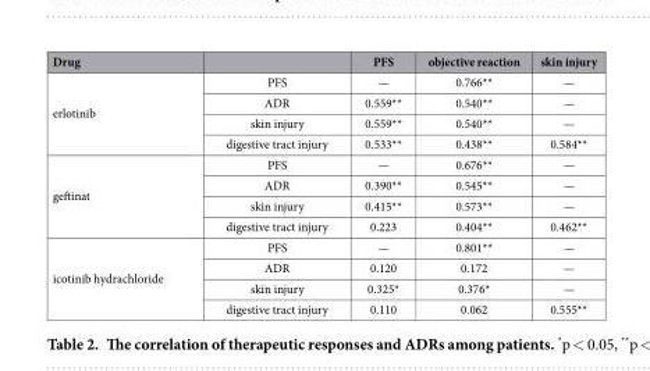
<table><thead><tr><td>Drug</td><td></td><td>PFS</td><td>objective reaction</td><td>skin injury</td></tr></thead><tbody><tr><td rowspan="4">erlotinib</td><td>PFS</td><td>—</td><td>0.766**</td><td>—</td></tr><tr><td>ADR</td><td>0.559**</td><td>0.540**</td><td>—</td></tr><tr><td>skin injury</td><td>0.559**</td><td>0.540**</td><td>—</td></tr><tr><td>digestive tract injury</td><td>0.533**</td><td>0.438**</td><td>0.584**</td></tr><tr><td rowspan="4">geftinat</td><td>PFS</td><td>—</td><td>0.676**</td><td>—</td></tr><tr><td>ADR</td><td>0.390**</td><td>0.545**</td><td>—</td></tr><tr><td>skin injury</td><td>0.415**</td><td>0.573**</td><td>—</td></tr><tr><td>digestive tract injury</td><td>0.223</td><td>0.404**</td><td>0.462**</td></tr><tr><td rowspan="4">icotinib hydrachloride</td><td>PFS</td><td>—</td><td>0.801**</td><td>—</td></tr><tr><td>ADR</td><td>0.120</td><td>0.172</td><td>—</td></tr><tr><td>skin injury</td><td>0.325*</td><td>0.376*</td><td>—</td></tr><tr><td>digestive tract injury</td><td>0.110</td><td>0.062</td><td>0.555**</td></tr></tbody></table>